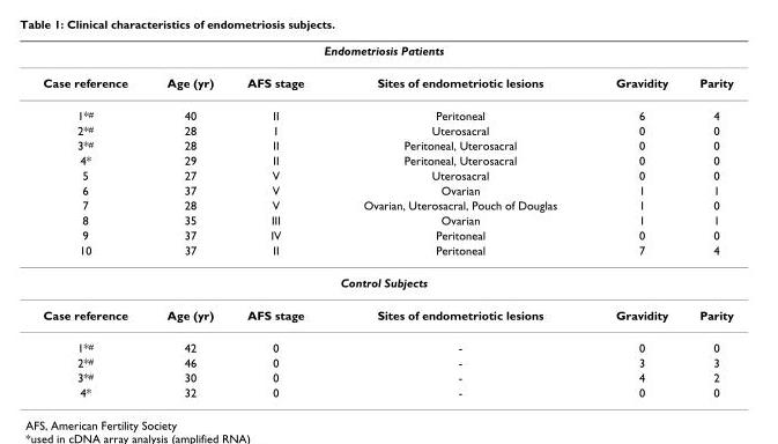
<table><thead><tr><td colspan="6">Endometriosis Patients</td></tr><tr><td>Case reference</td><td>Age (yr)</td><td>AFS stage</td><td>Sites of endometriotic lesions</td><td>Gravidity</td><td>Parity</td></tr></thead><tbody><tr><td>1*<sup>#</sup></td><td>40</td><td>II</td><td>Peritoneal</td><td>6</td><td>4</td></tr><tr><td>2*<sup>#</sup></td><td>28</td><td>I</td><td>Uterosacral</td><td>0</td><td>0</td></tr><tr><td>3*<sup>#</sup></td><td>28</td><td>II</td><td>Peritoneal, Uterosacral</td><td>0</td><td>0</td></tr><tr><td>4*</td><td>29</td><td>II</td><td>Peritoneal, Uterosacral</td><td>0</td><td>0</td></tr><tr><td>5</td><td>27</td><td>V</td><td>Uterosacral</td><td>0</td><td>0</td></tr><tr><td>6</td><td>37</td><td>V</td><td>Ovarian</td><td>1</td><td>1</td></tr><tr><td>7</td><td>28</td><td>V</td><td>Ovarian, Uterosacral, Pouch of Douglas</td><td>1</td><td>0</td></tr><tr><td>8</td><td>35</td><td>III</td><td>Ovarian</td><td>1</td><td>1</td></tr><tr><td>9</td><td>37</td><td>IV</td><td>Peritoneal</td><td>0</td><td>0</td></tr><tr><td>10</td><td>37</td><td>II</td><td>Peritoneal</td><td>7</td><td>4</td></tr><tr><td colspan="6">Control Subjects</td></tr><tr><td>Case reference</td><td>Age (yr)</td><td>AFS stage</td><td>Sites of endometriotic lesions</td><td>Gravidity</td><td>Parity</td></tr><tr><td>1*<sup>#</sup></td><td>42</td><td>0</td><td>-</td><td>0</td><td>0</td></tr><tr><td>2*<sup>#</sup></td><td>46</td><td>0</td><td>-</td><td>3</td><td>3</td></tr><tr><td>3*<sup>#</sup></td><td>30</td><td>0</td><td>-</td><td>4</td><td>2</td></tr><tr><td>4*</td><td>32</td><td>0</td><td>-</td><td>0</td><td>0</td></tr></tbody></table>